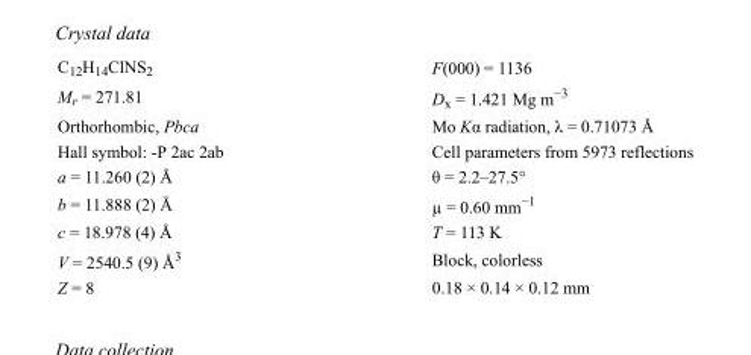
<table><tbody><tr><td>C<sub>12</sub>H<sub>14</sub>ClNS<sub>2</sub></td><td>F(000) = 1136</td></tr><tr><td>M<sub>r</sub> = 271.81</td><td>D<sub>x</sub> = 1.421 Mg m<sup>−3</sup></td></tr><tr><td>Orthorhombic, Pbca</td><td>Mo Kα radiation, λ = 0.71073 Å</td></tr><tr><td>Hall symbol: -P 2ac 2ab</td><td>Cell parameters from 5973 reflections</td></tr><tr><td>a = 11.260 (2) Å</td><td>θ = 2.2–27.5°</td></tr><tr><td>b = 11.888 (2) Å</td><td>µ = 0.60 mm<sup>−1</sup></td></tr><tr><td>c = 18.978 (4) Å</td><td>T = 113 K</td></tr><tr><td>V = 2540.5 (9) Å<sup>3</sup></td><td>Block, colorless</td></tr><tr><td>Z = 8</td><td>0.18 × 0.14 × 0.12 mm</td></tr></tbody></table>